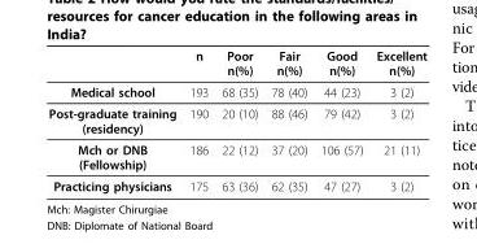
<table><thead><tr><td></td><td>n</td><td>Poor n(%)</td><td>Fair n(%)</td><td>Good n(%)</td><td>Excellent n(%)</td></tr></thead><tbody><tr><td>Medical school</td><td>193</td><td>68 (35)</td><td>78 (40)</td><td>44 (23)</td><td>3 (2)</td></tr><tr><td>Post-graduate training (residency)</td><td>190</td><td>20 (10)</td><td>88 (46)</td><td>79 (42)</td><td>3 (2)</td></tr><tr><td>Mch or DNB (Fellowship)</td><td>186</td><td>22 (12)</td><td>37 (20)</td><td>106 (57)</td><td>21 (11)</td></tr><tr><td>Practicing physicians</td><td>175</td><td>63 (36)</td><td>62 (35)</td><td>47 (27)</td><td>3 (2)</td></tr></tbody></table>